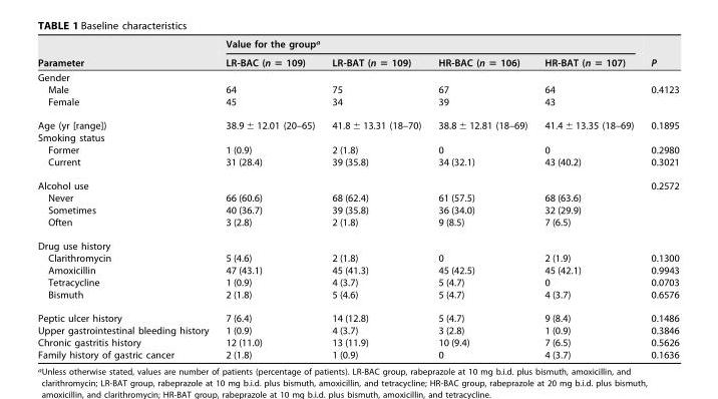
<table><thead><tr><td rowspan="2">Parameter</td><td colspan="4">Value for the group<sup>a</sup></td><td rowspan="2">P</td></tr><tr><td>LR-BAC (n = 109)</td><td>LR-BAT (n = 109)</td><td>HR-BAC (n = 106)</td><td>HR-BAT (n = 107)</td></tr></thead><tbody><tr><td colspan="6">Gender</td></tr><tr><td>Male</td><td>64</td><td>75</td><td>67</td><td>64</td><td>0.4123</td></tr><tr><td>Female</td><td>45</td><td>34</td><td>39</td><td>43</td><td></td></tr><tr><td>Age (yr [range])</td><td>38.9 ± 12.01 (20–65)</td><td>41.8 ± 13.31 (18–70)</td><td>38.8 ± 12.81 (18–69)</td><td>41.4 ± 13.35 (18–69)</td><td>0.1895</td></tr><tr><td colspan="6">Smoking status</td></tr><tr><td>Former</td><td>1 (0.9)</td><td>2 (1.8)</td><td>0</td><td>0</td><td>0.2980</td></tr><tr><td>Current</td><td>31 (28.4)</td><td>39 (35.8)</td><td>34 (32.1)</td><td>43 (40.2)</td><td>0.3021</td></tr><tr><td>Alcohol use</td><td></td><td></td><td></td><td></td><td>0.2572</td></tr><tr><td>Never</td><td>66 (60.6)</td><td>68 (62.4)</td><td>61 (57.5)</td><td>68 (63.6)</td><td></td></tr><tr><td>Sometimes</td><td>40 (36.7)</td><td>39 (35.8)</td><td>36 (34.0)</td><td>32 (29.9)</td><td></td></tr><tr><td>Often</td><td>3 (2.8)</td><td>2 (1.8)</td><td>9 (8.5)</td><td>7 (6.5)</td><td></td></tr><tr><td colspan="6">Drug use history</td></tr><tr><td>Clarithromycin</td><td>5 (4.6)</td><td>2 (1.8)</td><td>0</td><td>2 (1.9)</td><td>0.1300</td></tr><tr><td>Amoxicillin</td><td>47 (43.1)</td><td>45 (41.3)</td><td>45 (42.5)</td><td>45 (42.1)</td><td>0.9943</td></tr><tr><td>Tetracycline</td><td>1 (0.9)</td><td>4 (3.7)</td><td>5 (4.7)</td><td>0</td><td>0.0703</td></tr><tr><td>Bismuth</td><td>2 (1.8)</td><td>5 (4.6)</td><td>5 (4.7)</td><td>4 (3.7)</td><td>0.6576</td></tr><tr><td>Peptic ulcer history</td><td>7 (6.4)</td><td>14 (12.8)</td><td>5 (4.7)</td><td>9 (8.4)</td><td>0.1486</td></tr><tr><td>Upper gastrointestinal bleeding history</td><td>1 (0.9)</td><td>4 (3.7)</td><td>3 (2.8)</td><td>1 (0.9)</td><td>0.3846</td></tr><tr><td>Chronic gastritis history</td><td>12 (11.0)</td><td>13 (11.9)</td><td>10 (9.4)</td><td>7 (6.5)</td><td>0.5626</td></tr><tr><td>Family history of gastric cancer</td><td>2 (1.8)</td><td>1 (0.9)</td><td>0</td><td>4 (3.7)</td><td>0.1636</td></tr></tbody></table>